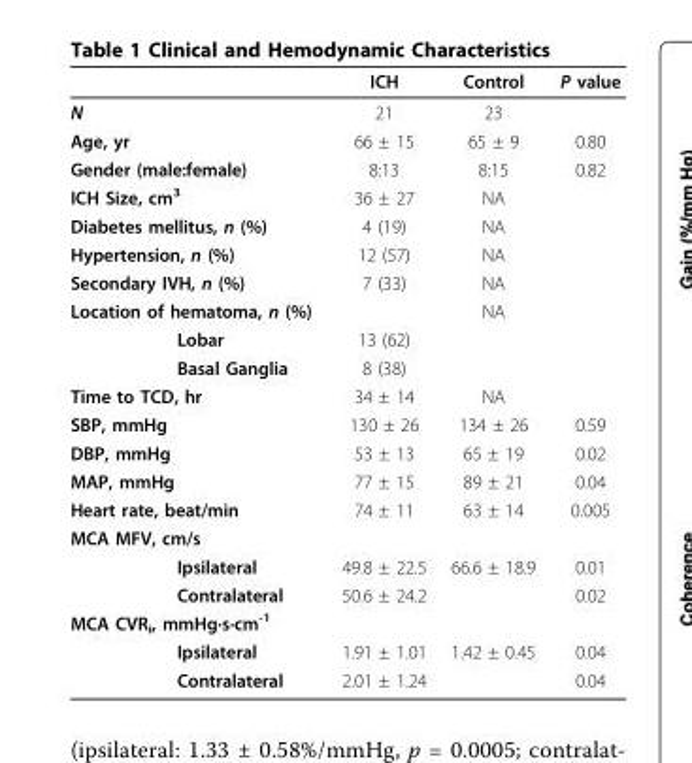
<table><thead><tr><td></td><td>ICH</td><td>Control</td><td>P value</td></tr></thead><tbody><tr><td>N</td><td>21</td><td>23</td><td></td></tr><tr><td>Age, yr</td><td>66 ± 15</td><td>65 ± 9</td><td>0.80</td></tr><tr><td>Gender (male:female)</td><td>8:13</td><td>8:15</td><td>0.82</td></tr><tr><td>ICH Size, cm<sup>3</sup></td><td>36 ± 27</td><td>NA</td><td></td></tr><tr><td>Diabetes mellitus, n (%)</td><td>4 (19)</td><td>NA</td><td></td></tr><tr><td>Hypertension, n (%)</td><td>12 (57)</td><td>NA</td><td></td></tr><tr><td>Secondary IVH, n (%)</td><td>7 (33)</td><td>NA</td><td></td></tr><tr><td>Location of hematoma, n (%)</td><td></td><td>NA</td><td></td></tr><tr><td>Lobar</td><td>13 (62)</td><td></td><td></td></tr><tr><td>Basal Ganglia</td><td>8 (38)</td><td></td><td></td></tr><tr><td>Time to TCD, hr</td><td>34 ± 14</td><td>NA</td><td></td></tr><tr><td>SBP, mmHg</td><td>130 ± 26</td><td>134 ± 26</td><td>0.59</td></tr><tr><td>DBP, mmHg</td><td>53 ± 13</td><td>65 ± 19</td><td>0.02</td></tr><tr><td>MAP, mmHg</td><td>77 ± 15</td><td>89 ± 21</td><td>0.04</td></tr><tr><td>Heart rate, beat/min</td><td>74 ± 11</td><td>63 ± 14</td><td>0.005</td></tr><tr><td colspan="4">MCA MFV, cm/s</td></tr><tr><td>Ipsilateral</td><td>49.8 ± 22.5</td><td>66.6 ± 18.9</td><td>0.01</td></tr><tr><td>Contralateral</td><td>50.6 ± 24.2</td><td></td><td>0.02</td></tr><tr><td colspan="4">MCA CVR<sub>i</sub>, mmHg·s·cm<sup>-1</sup></td></tr><tr><td>Ipsilateral</td><td>1.91 ± 1.01</td><td>1.42 ± 0.45</td><td>0.04</td></tr><tr><td>Contralateral</td><td>2.01 ± 1.24</td><td></td><td>0.04</td></tr></tbody></table>